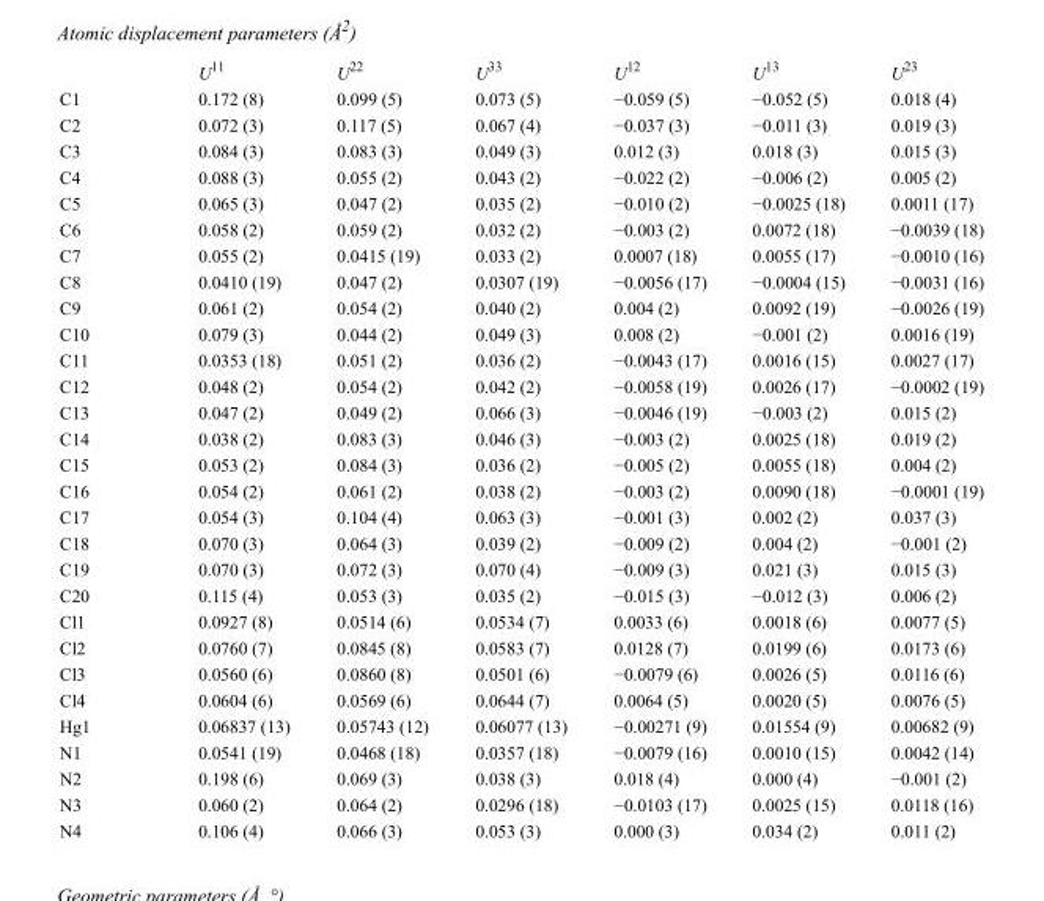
<table><thead><tr><td></td><td>U<sup>11</sup></td><td>U<sup>22</sup></td><td>U<sup>33</sup></td><td>U<sup>12</sup></td><td>U<sup>13</sup></td><td>U<sup>23</sup></td></tr></thead><tbody><tr><td>C1</td><td>0.172 (8)</td><td>0.099 (5)</td><td>0.073 (5)</td><td>−0.059 (5)</td><td>−0.052 (5)</td><td>0.018 (4)</td></tr><tr><td>C2</td><td>0.072 (3)</td><td>0.117 (5)</td><td>0.067 (4)</td><td>−0.037 (3)</td><td>−0.011 (3)</td><td>0.019 (3)</td></tr><tr><td>C3</td><td>0.084 (3)</td><td>0.083 (3)</td><td>0.049 (3)</td><td>0.012 (3)</td><td>0.018 (3)</td><td>0.015 (3)</td></tr><tr><td>C4</td><td>0.088 (3)</td><td>0.055 (2)</td><td>0.043 (2)</td><td>−0.022 (2)</td><td>−0.006 (2)</td><td>0.005 (2)</td></tr><tr><td>C5</td><td>0.065 (3)</td><td>0.047 (2)</td><td>0.035 (2)</td><td>−0.010 (2)</td><td>−0.0025 (18)</td><td>0.0011 (17)</td></tr><tr><td>C6</td><td>0.058 (2)</td><td>0.059 (2)</td><td>0.032 (2)</td><td>−0.003 (2)</td><td>0.0072 (18)</td><td>−0.0039 (18)</td></tr><tr><td>C7</td><td>0.055 (2)</td><td>0.0415 (19)</td><td>0.033 (2)</td><td>0.0007 (18)</td><td>0.0055 (17)</td><td>−0.0010 (16)</td></tr><tr><td>C8</td><td>0.0410 (19)</td><td>0.047 (2)</td><td>0.0307 (19)</td><td>−0.0056 (17)</td><td>−0.0004 (15)</td><td>−0.0031 (16)</td></tr><tr><td>C9</td><td>0.061 (2)</td><td>0.054 (2)</td><td>0.040 (2)</td><td>0.004 (2)</td><td>0.0092 (19)</td><td>−0.0026 (19)</td></tr><tr><td>C10</td><td>0.079 (3)</td><td>0.044 (2)</td><td>0.049 (3)</td><td>0.008 (2)</td><td>−0.001 (2)</td><td>0.0016 (19)</td></tr><tr><td>C11</td><td>0.0353 (18)</td><td>0.051 (2)</td><td>0.036 (2)</td><td>−0.0043 (17)</td><td>0.0016 (15)</td><td>0.0027 (17)</td></tr><tr><td>C12</td><td>0.048 (2)</td><td>0.054 (2)</td><td>0.042 (2)</td><td>−0.0058 (19)</td><td>0.0026 (17)</td><td>−0.0002 (19)</td></tr><tr><td>C13</td><td>0.047 (2)</td><td>0.049 (2)</td><td>0.066 (3)</td><td>−0.0046 (19)</td><td>−0.003 (2)</td><td>0.015 (2)</td></tr><tr><td>C14</td><td>0.038 (2)</td><td>0.083 (3)</td><td>0.046 (3)</td><td>−0.003 (2)</td><td>0.0025 (18)</td><td>0.019 (2)</td></tr><tr><td>C15</td><td>0.053 (2)</td><td>0.084 (3)</td><td>0.036 (2)</td><td>−0.005 (2)</td><td>0.0055 (18)</td><td>0.004 (2)</td></tr><tr><td>C16</td><td>0.054 (2)</td><td>0.061 (2)</td><td>0.038 (2)</td><td>−0.003 (2)</td><td>0.0090 (18)</td><td>−0.0001 (19)</td></tr><tr><td>C17</td><td>0.054 (3)</td><td>0.104 (4)</td><td>0.063 (3)</td><td>−0.001 (3)</td><td>0.002 (2)</td><td>0.037 (3)</td></tr><tr><td>C18</td><td>0.070 (3)</td><td>0.064 (3)</td><td>0.039 (2)</td><td>−0.009 (2)</td><td>0.004 (2)</td><td>−0.001 (2)</td></tr><tr><td>C19</td><td>0.070 (3)</td><td>0.072 (3)</td><td>0.070 (4)</td><td>−0.009 (3)</td><td>0.021 (3)</td><td>0.015 (3)</td></tr><tr><td>C20</td><td>0.115 (4)</td><td>0.053 (3)</td><td>0.035 (2)</td><td>−0.015 (3)</td><td>−0.012 (3)</td><td>0.006 (2)</td></tr><tr><td>Cl1</td><td>0.0927 (8)</td><td>0.0514 (6)</td><td>0.0534 (7)</td><td>0.0033 (6)</td><td>0.0018 (6)</td><td>0.0077 (5)</td></tr><tr><td>Cl2</td><td>0.0760 (7)</td><td>0.0845 (8)</td><td>0.0583 (7)</td><td>0.0128 (7)</td><td>0.0199 (6)</td><td>0.0173 (6)</td></tr><tr><td>Cl3</td><td>0.0560 (6)</td><td>0.0860 (8)</td><td>0.0501 (6)</td><td>−0.0079 (6)</td><td>0.0026 (5)</td><td>0.0116 (6)</td></tr><tr><td>Cl4</td><td>0.0604 (6)</td><td>0.0569 (6)</td><td>0.0644 (7)</td><td>0.0064 (5)</td><td>0.0020 (5)</td><td>0.0076 (5)</td></tr><tr><td>Hg1</td><td>0.06837 (13)</td><td>0.05743 (12)</td><td>0.06077 (13)</td><td>−0.00271 (9)</td><td>0.01554 (9)</td><td>0.00682 (9)</td></tr><tr><td>N1</td><td>0.0541 (19)</td><td>0.0468 (18)</td><td>0.0357 (18)</td><td>−0.0079 (16)</td><td>0.0010 (15)</td><td>0.0042 (14)</td></tr><tr><td>N2</td><td>0.198 (6)</td><td>0.069 (3)</td><td>0.038 (3)</td><td>0.018 (4)</td><td>0.000 (4)</td><td>−0.001 (2)</td></tr><tr><td>N3</td><td>0.060 (2)</td><td>0.064 (2)</td><td>0.0296 (18)</td><td>−0.0103 (17)</td><td>0.0025 (15)</td><td>0.0118 (16)</td></tr><tr><td>N4</td><td>0.106 (4)</td><td>0.066 (3)</td><td>0.053 (3)</td><td>0.000 (3)</td><td>0.034 (2)</td><td>0.011 (2)</td></tr></tbody></table>